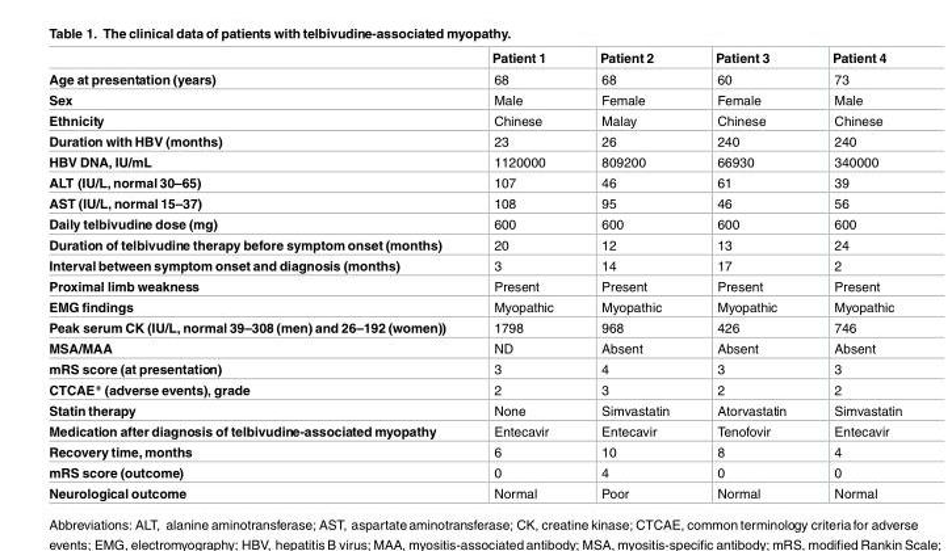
<table><thead><tr><td></td><td>Patient 1</td><td>Patient 2</td><td>Patient 3</td><td>Patient 4</td></tr></thead><tbody><tr><td>Age at presentation (years)</td><td>68</td><td>68</td><td>60</td><td>73</td></tr><tr><td>Sex</td><td>Male</td><td>Female</td><td>Female</td><td>Male</td></tr><tr><td>Ethnicity</td><td>Chinese</td><td>Malay</td><td>Chinese</td><td>Chinese</td></tr><tr><td>Duration with HBV (months)</td><td>23</td><td>26</td><td>240</td><td>240</td></tr><tr><td>HBV DNA, IU/mL</td><td>1120000</td><td>809200</td><td>66930</td><td>340000</td></tr><tr><td>ALT (IU/L, normal 30–65)</td><td>107</td><td>46</td><td>61</td><td>39</td></tr><tr><td>AST (IU/L, normal 15–37)</td><td>108</td><td>95</td><td>46</td><td>56</td></tr><tr><td>Daily telbivudine dose (mg)</td><td>600</td><td>600</td><td>600</td><td>600</td></tr><tr><td>Duration of telbivudine therapy before symptom onset (months)</td><td>20</td><td>12</td><td>13</td><td>24</td></tr><tr><td>Interval between symptom onset and diagnosis (months)</td><td>3</td><td>14</td><td>17</td><td>2</td></tr><tr><td>Proximal limb weakness</td><td>Present</td><td>Present</td><td>Present</td><td>Present</td></tr><tr><td>EMG findings</td><td>Myopathic</td><td>Myopathic</td><td>Myopathic</td><td>Myopathic</td></tr><tr><td>Peak serum CK (IU/L, normal 39–308 (men) and 26–192 (women))</td><td>1798</td><td>968</td><td>426</td><td>746</td></tr><tr><td>MSA/MAA</td><td>ND</td><td>Absent</td><td>Absent</td><td>Absent</td></tr><tr><td>mRS score (at presentation)</td><td>3</td><td>4</td><td>3</td><td>3</td></tr><tr><td>CTCAE* (adverse events), grade</td><td>2</td><td>3</td><td>2</td><td>2</td></tr><tr><td>Statin therapy</td><td>None</td><td>Simvastatin</td><td>Atorvastatin</td><td>Simvastatin</td></tr><tr><td>Medication after diagnosis of telbivudine-associated myopathy</td><td>Entecavir</td><td>Entecavir</td><td>Tenofovir</td><td>Entecavir</td></tr><tr><td>Recovery time, months</td><td>6</td><td>10</td><td>8</td><td>4</td></tr><tr><td>mRS score (outcome)</td><td>0</td><td>4</td><td>0</td><td>0</td></tr><tr><td>Neurological outcome</td><td>Normal</td><td>Poor</td><td>Normal</td><td>Normal</td></tr></tbody></table>